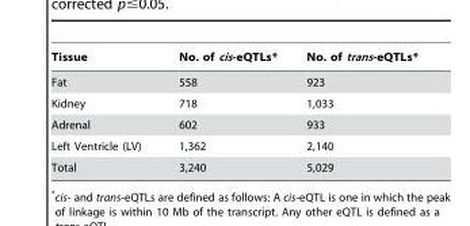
<table><thead><tr><td>Tissue</td><td>No. of cis-eQTLs*</td><td>No. of trans-eQTLs*</td></tr></thead><tbody><tr><td>Fat</td><td>558</td><td>923</td></tr><tr><td>Kidney</td><td>718</td><td>1,033</td></tr><tr><td>Adrenal</td><td>602</td><td>933</td></tr><tr><td>Left Ventricle (LV)</td><td>1,362</td><td>2,140</td></tr><tr><td>Total</td><td>3,240</td><td>5,029</td></tr></tbody></table>